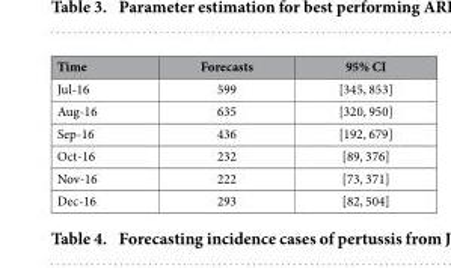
<table><thead><tr><td>Time</td><td>Forecasts</td><td>95% CI</td></tr></thead><tbody><tr><td>Jul-16</td><td>599</td><td>[345, 853]</td></tr><tr><td>Aug-16</td><td>635</td><td>[320, 950]</td></tr><tr><td>Sep-16</td><td>436</td><td>[192, 679]</td></tr><tr><td>Oct-16</td><td>232</td><td>[89, 376]</td></tr><tr><td>Nov-16</td><td>222</td><td>[73, 371]</td></tr><tr><td>Dec-16</td><td>293</td><td>[82, 504]</td></tr></tbody></table>